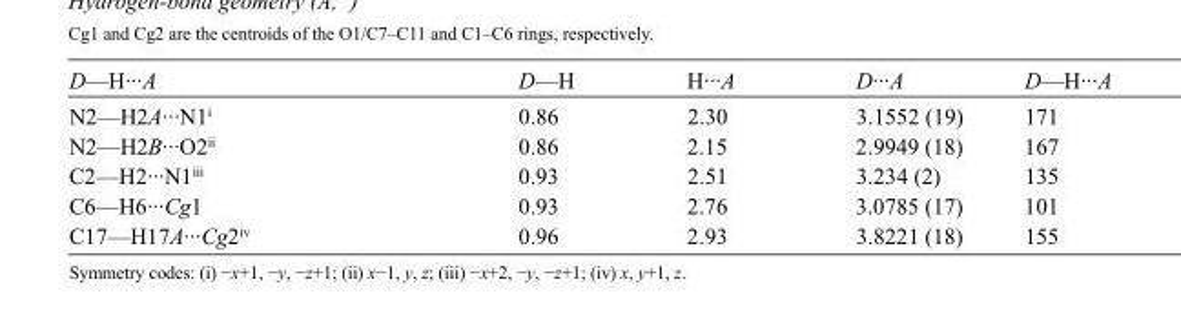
<table><tbody><tr><td>D—H···A</td><td>D—H</td><td>H···A</td><td>D···A</td><td>D—H···A</td></tr><tr><td>N2—H2A···N1<sup>i</sup></td><td>0.86</td><td>2.30</td><td>3.1552 (19)</td><td>171</td></tr><tr><td>N2—H2B···O2<sup>ii</sup></td><td>0.86</td><td>2.15</td><td>2.9949 (18)</td><td>167</td></tr><tr><td>C2—H2···N1<sup>iii</sup></td><td>0.93</td><td>2.51</td><td>3.234 (2)</td><td>135</td></tr><tr><td>C6—H6···Cg1</td><td>0.93</td><td>2.76</td><td>3.0785 (17)</td><td>101</td></tr><tr><td>C17—H17A···Cg2<sup>iv</sup></td><td>0.96</td><td>2.93</td><td>3.8221 (18)</td><td>155</td></tr></tbody></table>